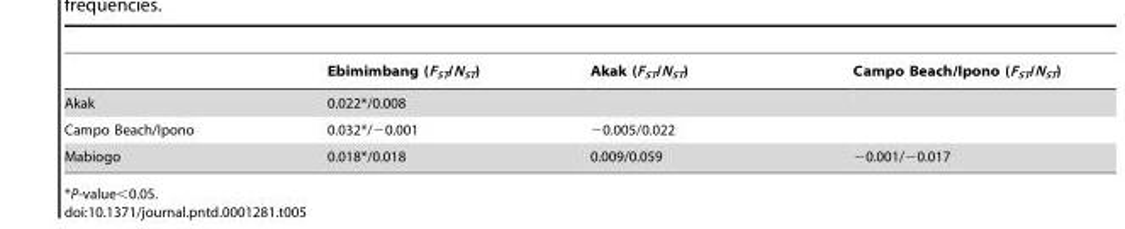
<table><thead><tr><td></td><td>Ebimimbang (F<sub>ST</sub>/N<sub>ST</sub>)</td><td>Akak (F<sub>ST</sub>/N<sub>ST</sub>)</td><td>Campo Beach/Ipono (F<sub>ST</sub>/N<sub>ST</sub>)</td></tr></thead><tbody><tr><td>Akak</td><td>0.022*/0.008</td><td></td><td></td></tr><tr><td>Campo Beach/Ipono</td><td>0.032*/−0.001</td><td>−0.005/0.022</td><td></td></tr><tr><td>Mabiogo</td><td>0.018*/0.018</td><td>0.009/0.059</td><td>−0.001/−0.017</td></tr></tbody></table>